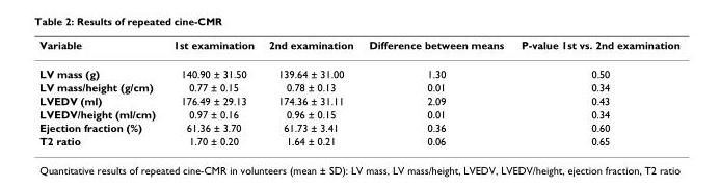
<table><thead><tr><td>Variable</td><td>1st examination</td><td>2nd examination</td><td>Difference between means</td><td>P-value 1st vs. 2nd examination</td></tr></thead><tbody><tr><td>LV mass (g)</td><td>140.90 ± 31.50</td><td>139.64 ± 31.00</td><td>1.30</td><td>0.50</td></tr><tr><td>LV mass/height (g/cm)</td><td>0.77 ± 0.15</td><td>0.78 ± 0.13</td><td>0.01</td><td>0.34</td></tr><tr><td>LVEDV (ml)</td><td>176.49 ± 29.13</td><td>174.36 ± 31.11</td><td>2.09</td><td>0.43</td></tr><tr><td>LVEDV/height (ml/cm)</td><td>0.97 ± 0.16</td><td>0.96 ± 0.15</td><td>0.01</td><td>0.34</td></tr><tr><td>Ejection fraction (%)</td><td>61.36 ± 3.70</td><td>61.73 ± 3.41</td><td>0.36</td><td>0.60</td></tr><tr><td>T2 ratio</td><td>1.70 ± 0.20</td><td>1.64 ± 0.21</td><td>0.06</td><td>0.65</td></tr></tbody></table>